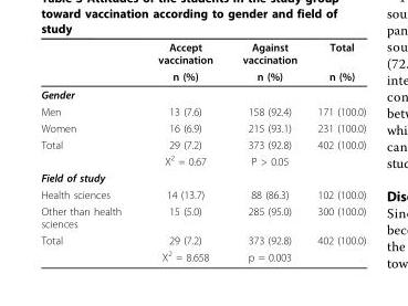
<table><thead><tr><td rowspan="2"></td><td rowspan="2">Accept vaccination n (%)</td><td rowspan="2">Against vaccination n (%)</td><td rowspan="2">Total n (%)</td></tr><tr></tr></thead><tbody><tr><td colspan="4">Gender</td></tr><tr><td>Men</td><td>13 (7.6)</td><td>158 (92.4)</td><td>171 (100.0)</td></tr><tr><td>Women</td><td>16 (6.9)</td><td>215 (93.1)</td><td>231 (100.0)</td></tr><tr><td rowspan="2">Total</td><td>29 (7.2)</td><td>373 (92.8)</td><td>402 (100.0)</td></tr><tr><td>X<sup>2</sup> = 0.67</td><td>P &gt; 0.05</td><td></td></tr><tr><td colspan="4">Field of study</td></tr><tr><td>Health sciences</td><td>14 (13.7)</td><td>88 (86.3)</td><td>102 (100.0)</td></tr><tr><td>Other than health sciences</td><td>15 (5.0)</td><td>285 (95.0)</td><td>300 (100.0)</td></tr><tr><td rowspan="2">Total</td><td>29 (7.2)</td><td>373 (92.8)</td><td>402 (100.0)</td></tr><tr><td>X<sup>2</sup> = 8.658</td><td>p = 0.003</td><td></td></tr></tbody></table>